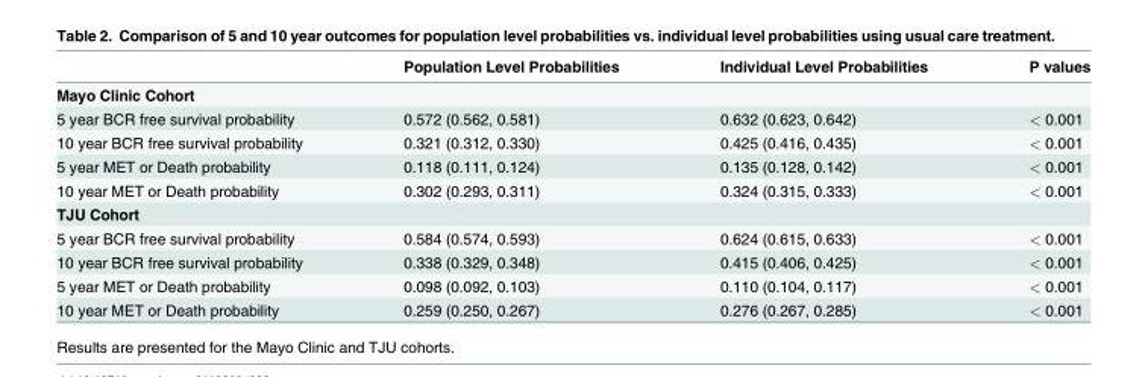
<table><thead><tr><td></td><td>Population Level Probabilities</td><td>Individual Level Probabilities</td><td>P values</td></tr></thead><tbody><tr><td colspan="4">Mayo Clinic Cohort</td></tr><tr><td>5 year BCR free survival probability</td><td>0.572 (0.562, 0.581)</td><td>0.632 (0.623, 0.642)</td><td>&lt; 0.001</td></tr><tr><td>10 year BCR free survival probability</td><td>0.321 (0.312, 0.330)</td><td>0.425 (0.416, 0.435)</td><td>&lt; 0.001</td></tr><tr><td>5 year MET or Death probability</td><td>0.118 (0.111, 0.124)</td><td>0.135 (0.128, 0.142)</td><td>&lt; 0.001</td></tr><tr><td>10 year MET or Death probability</td><td>0.302 (0.293, 0.311)</td><td>0.324 (0.315, 0.333)</td><td>&lt; 0.001</td></tr><tr><td colspan="4">TJU Cohort</td></tr><tr><td>5 year BCR free survival probability</td><td>0.584 (0.574, 0.593)</td><td>0.624 (0.615, 0.633)</td><td>&lt; 0.001</td></tr><tr><td>10 year BCR free survival probability</td><td>0.338 (0.329, 0.348)</td><td>0.415 (0.406, 0.425)</td><td>&lt; 0.001</td></tr><tr><td>5 year MET or Death probability</td><td>0.098 (0.092, 0.103)</td><td>0.110 (0.104, 0.117)</td><td>&lt; 0.001</td></tr><tr><td>10 year MET or Death probability</td><td>0.259 (0.250, 0.267)</td><td>0.276 (0.267, 0.285)</td><td>&lt; 0.001</td></tr></tbody></table>